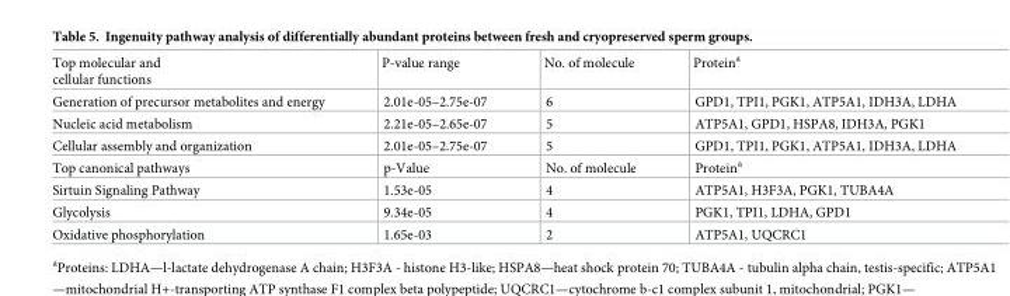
<table><tbody><tr><td>Top molecular and cellular functions</td><td>P-value range</td><td>No. of molecule</td><td>Protein<sup>a</sup></td></tr><tr><td>Generation of precursor metabolites and energy</td><td>2.01e-05–2.75e-07</td><td>6</td><td>GPD1, TPI1, PGK1, ATP5A1, IDH3A, LDHA</td></tr><tr><td>Nucleic acid metabolism</td><td>2.21e-05–2.65e-07</td><td>5</td><td>ATP5A1, GPD1, HSPA8, IDH3A, PGK1</td></tr><tr><td>Cellular assembly and organization</td><td>2.01e-05–2.75e-07</td><td>5</td><td>GPD1, TPI1, PGK1, ATP5A1, IDH3A, LDHA</td></tr><tr><td>Top canonical pathways</td><td>p-Value</td><td>No. of molecule</td><td>Protein<sup>a</sup></td></tr><tr><td>Sirtuin Signaling Pathway</td><td>1.53e-05</td><td>4</td><td>ATP5A1, H3F3A, PGK1, TUBA4A</td></tr><tr><td>Glycolysis</td><td>9.34e-05</td><td>4</td><td>PGK1, TPI1, LDHA, GPD1</td></tr><tr><td>Oxidative phosphorylation</td><td>1.65e-03</td><td>2</td><td>ATP5A1, UQCRC1</td></tr></tbody></table>